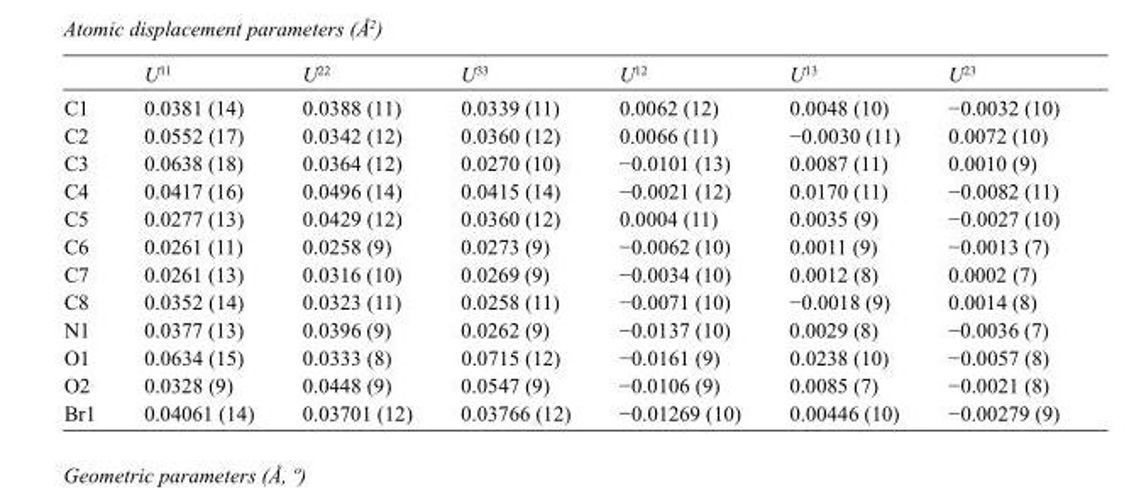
<table><thead><tr><td></td><td>U<sup>11</sup></td><td>U<sup>22</sup></td><td>U<sup>33</sup></td><td>U<sup>12</sup></td><td>U<sup>13</sup></td><td>U<sup>23</sup></td></tr></thead><tbody><tr><td>C1</td><td>0.0381 (14)</td><td>0.0388 (11)</td><td>0.0339 (11)</td><td>0.0062 (12)</td><td>0.0048 (10)</td><td>−0.0032 (10)</td></tr><tr><td>C2</td><td>0.0552 (17)</td><td>0.0342 (12)</td><td>0.0360 (12)</td><td>0.0066 (11)</td><td>−0.0030 (11)</td><td>0.0072 (10)</td></tr><tr><td>C3</td><td>0.0638 (18)</td><td>0.0364 (12)</td><td>0.0270 (10)</td><td>−0.0101 (13)</td><td>0.0087 (11)</td><td>0.0010 (9)</td></tr><tr><td>C4</td><td>0.0417 (16)</td><td>0.0496 (14)</td><td>0.0415 (14)</td><td>−0.0021 (12)</td><td>0.0170 (11)</td><td>−0.0082 (11)</td></tr><tr><td>C5</td><td>0.0277 (13)</td><td>0.0429 (12)</td><td>0.0360 (12)</td><td>0.0004 (11)</td><td>0.0035 (9)</td><td>−0.0027 (10)</td></tr><tr><td>C6</td><td>0.0261 (11)</td><td>0.0258 (9)</td><td>0.0273 (9)</td><td>−0.0062 (10)</td><td>0.0011 (9)</td><td>−0.0013 (7)</td></tr><tr><td>C7</td><td>0.0261 (13)</td><td>0.0316 (10)</td><td>0.0269 (9)</td><td>−0.0034 (10)</td><td>0.0012 (8)</td><td>0.0002 (7)</td></tr><tr><td>C8</td><td>0.0352 (14)</td><td>0.0323 (11)</td><td>0.0258 (11)</td><td>−0.0071 (10)</td><td>−0.0018 (9)</td><td>0.0014 (8)</td></tr><tr><td>N1</td><td>0.0377 (13)</td><td>0.0396 (9)</td><td>0.0262 (9)</td><td>−0.0137 (10)</td><td>0.0029 (8)</td><td>−0.0036 (7)</td></tr><tr><td>O1</td><td>0.0634 (15)</td><td>0.0333 (8)</td><td>0.0715 (12)</td><td>−0.0161 (9)</td><td>0.0238 (10)</td><td>−0.0057 (8)</td></tr><tr><td>O2</td><td>0.0328 (9)</td><td>0.0448 (9)</td><td>0.0547 (9)</td><td>−0.0106 (9)</td><td>0.0085 (7)</td><td>−0.0021 (8)</td></tr><tr><td>Br1</td><td>0.04061 (14)</td><td>0.03701 (12)</td><td>0.03766 (12)</td><td>−0.01269 (10)</td><td>0.00446 (10)</td><td>−0.00279 (9)</td></tr></tbody></table>